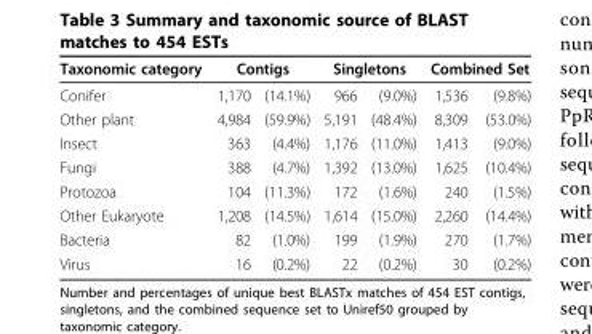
<table><thead><tr><td rowspan="2">Taxonomic category Conifer</td><td colspan="2">Contigs</td><td colspan="2">Singletons</td><td colspan="2">Combined Set</td></tr><tr><td>1,170</td><td>(14.1%)</td><td>966</td><td>(9.0%)</td><td>1,536</td><td>(9.8%)</td></tr></thead><tbody><tr><td>Other plant</td><td>4,984</td><td>(59.9%)</td><td>5,191</td><td>(48.4%)</td><td>8,309</td><td>(53.0%)</td></tr><tr><td>Insect</td><td>363</td><td>(4.4%)</td><td>1,176</td><td>(11.0%)</td><td>1,413</td><td>(9.0%)</td></tr><tr><td>Fungi</td><td>388</td><td>(4.7%)</td><td>1,392</td><td>(13.0%)</td><td>1,625</td><td>(10.4%)</td></tr><tr><td>Protozoa</td><td>104</td><td>(11.3%)</td><td>172</td><td>(1.6%)</td><td>240</td><td>(1.5%)</td></tr><tr><td>Other Eukaryote</td><td>1,208</td><td>(14.5%)</td><td>1,614</td><td>(15.0%)</td><td>2,260</td><td>(14.4%)</td></tr><tr><td>Bacteria</td><td>82</td><td>(1.0%)</td><td>199</td><td>(1.9%)</td><td>270</td><td>(1.7%)</td></tr><tr><td>Virus</td><td>16</td><td>(0.2%)</td><td>22</td><td>(0.2%)</td><td>30</td><td>(0.2%)</td></tr></tbody></table>